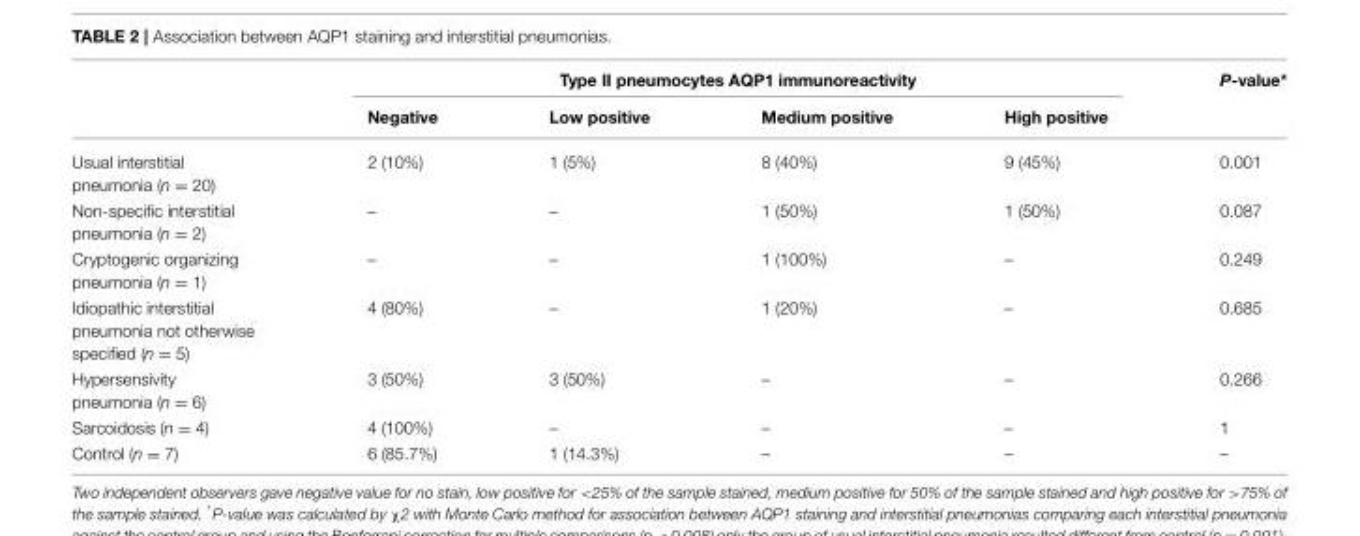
<table><thead><tr><td rowspan="2"></td><td colspan="4">Type II pneumocytes AQP1 immunoreactivity</td><td rowspan="2">P-value*</td></tr><tr><td>Negative</td><td>Low positive</td><td>Medium positive</td><td>High positive</td></tr></thead><tbody><tr><td>Usual interstitial pneumonia (n = 20)</td><td>2 (10%)</td><td>1 (5%)</td><td>8 (40%)</td><td>9 (45%)</td><td>0.001</td></tr><tr><td>Non-specific interstitial pneumonia (n = 2)</td><td>–</td><td>–</td><td>1 (50%)</td><td>1 (50%)</td><td>0.087</td></tr><tr><td>Cryptogenic organizing pneumonia (n = 1)</td><td>–</td><td>–</td><td>1 (100%)</td><td>–</td><td>0.249</td></tr><tr><td>Idiopathic interstitial pneumonia not otherwise specified (n = 5)</td><td>4 (80%)</td><td>–</td><td>1 (20%)</td><td>–</td><td>0.685</td></tr><tr><td>Hypersensivity pneumonia (n = 6)</td><td>3 (50%)</td><td>3 (50%)</td><td>–</td><td>–</td><td>0.266</td></tr><tr><td>Sarcoidosis (n = 4)</td><td>4 (100%)</td><td>–</td><td>–</td><td>–</td><td>1</td></tr><tr><td>Control (n = 7)</td><td>6 (85.7%)</td><td>1 (14.3%)</td><td>–</td><td>–</td><td>–</td></tr></tbody></table>